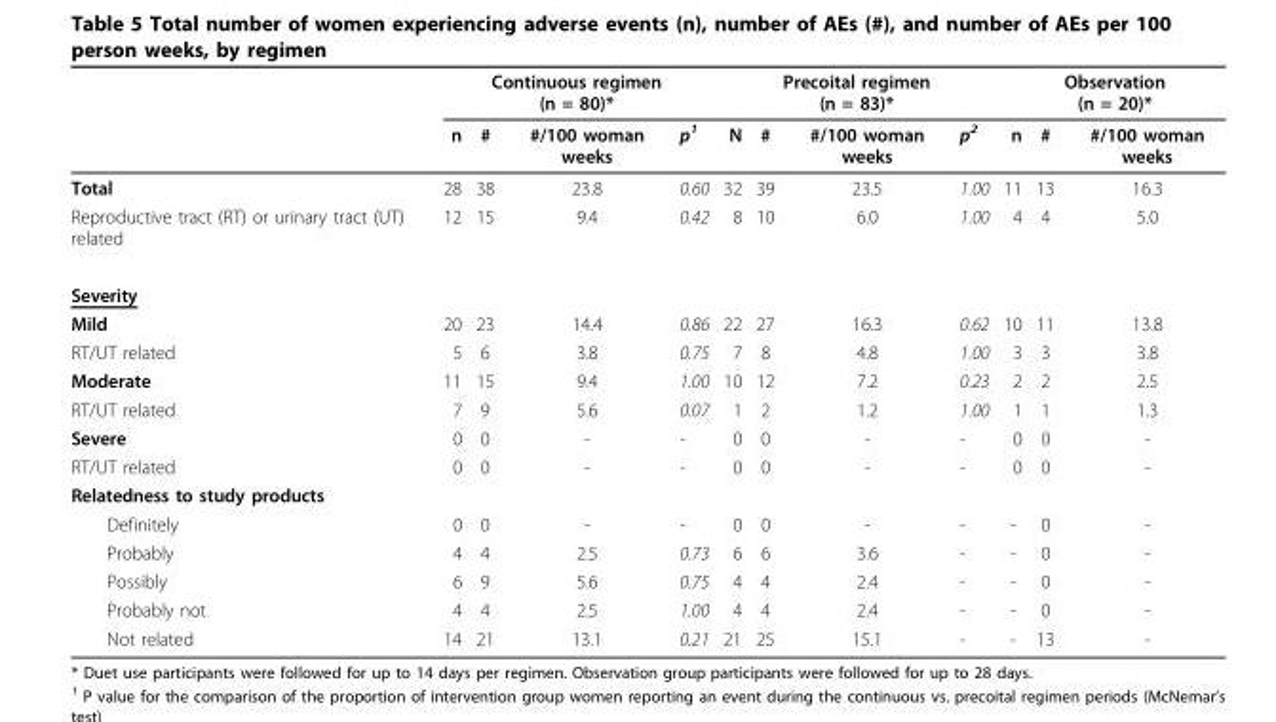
<table><thead><tr><td rowspan="2"></td><td colspan="4">Continuous regimen (n = 80)*</td><td colspan="4">Precoital regimen (n = 83)*</td><td colspan="3">Observation (n = 20)*</td></tr><tr><td>n</td><td>#</td><td>#/100 woman weeks</td><td>p<sup>1</sup></td><td>N</td><td>#</td><td>#/100 woman weeks</td><td>p<sup>2</sup></td><td>n</td><td>#</td><td>#/100 woman weeks</td></tr></thead><tbody><tr><td>Total</td><td>28</td><td>38</td><td>23.8</td><td>0.60</td><td>32</td><td>39</td><td>23.5</td><td>1.00</td><td>11</td><td>13</td><td>16.3</td></tr><tr><td>Reproductive tract (RT) or urinary tract (UT) related</td><td>12</td><td>15</td><td>9.4</td><td>0.42</td><td>8</td><td>10</td><td>6.0</td><td>1.00</td><td>4</td><td>4</td><td>5.0</td></tr><tr><td colspan="12">Severity</td></tr><tr><td>Mild</td><td>20</td><td>23</td><td>14.4</td><td>0.86</td><td>22</td><td>27</td><td>16.3</td><td>0.62</td><td>10</td><td>11</td><td>13.8</td></tr><tr><td>RT/UT related</td><td>5</td><td>6</td><td>3.8</td><td>0.75</td><td>7</td><td>8</td><td>4.8</td><td>1.00</td><td>3</td><td>3</td><td>3.8</td></tr><tr><td>Moderate</td><td>11</td><td>15</td><td>9.4</td><td>1.00</td><td>10</td><td>12</td><td>7.2</td><td>0.23</td><td>2</td><td>2</td><td>2.5</td></tr><tr><td>RT/UT related</td><td>7</td><td>9</td><td>5.6</td><td>0.07</td><td>1</td><td>2</td><td>1.2</td><td>1.00</td><td>1</td><td>1</td><td>1.3</td></tr><tr><td>Severe</td><td>0</td><td>0</td><td>-</td><td>-</td><td>0</td><td>0</td><td>-</td><td>-</td><td>0</td><td>0</td><td>-</td></tr><tr><td>RT/UT related</td><td>0</td><td>0</td><td>-</td><td>-</td><td>0</td><td>0</td><td>-</td><td>-</td><td>0</td><td>0</td><td>-</td></tr><tr><td colspan="12">Relatedness to study products</td></tr><tr><td>Definitely</td><td>0</td><td>0</td><td>-</td><td>-</td><td>0</td><td>0</td><td>-</td><td>-</td><td>-</td><td>0</td><td>-</td></tr><tr><td>Probably</td><td>4</td><td>4</td><td>2.5</td><td>0.73</td><td>6</td><td>6</td><td>3.6</td><td>-</td><td>-</td><td>0</td><td>-</td></tr><tr><td>Possibly</td><td>6</td><td>9</td><td>5.6</td><td>0.75</td><td>4</td><td>4</td><td>2.4</td><td>-</td><td>-</td><td>0</td><td>-</td></tr><tr><td>Probably not</td><td>4</td><td>4</td><td>2.5</td><td>1.00</td><td>4</td><td>4</td><td>2.4</td><td>-</td><td>-</td><td>0</td><td>-</td></tr><tr><td>Not related</td><td>14</td><td>21</td><td>13.1</td><td>0.21</td><td>21</td><td>25</td><td>15.1</td><td>-</td><td>-</td><td>13</td><td>-</td></tr></tbody></table>